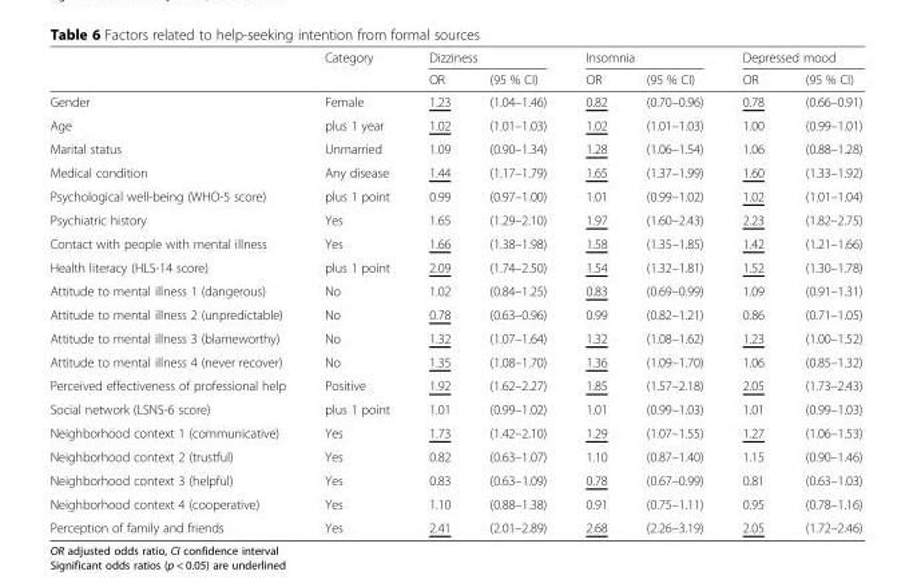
<table><thead><tr><td rowspan="2"></td><td rowspan="2">Category</td><td colspan="2">Dizziness</td><td colspan="2">Insomnia</td><td colspan="2">Depressed mood</td></tr><tr><td>OR</td><td>(95 % CI)</td><td>OR</td><td>(95 % CI)</td><td>OR</td><td>(95 % CI)</td></tr></thead><tbody><tr><td>Gender</td><td>Female</td><td>1.23</td><td>(1.04–1.46)</td><td>0.82</td><td>(0.70–0.96)</td><td>0.78</td><td>(0.66–0.91)</td></tr><tr><td>Age</td><td>plus 1 year</td><td>1.02</td><td>(1.01–1.03)</td><td>1.02</td><td>(1.01–1.03)</td><td>1.00</td><td>(0.99–1.01)</td></tr><tr><td>Marital status</td><td>Unmarried</td><td>1.09</td><td>(0.90–1.34)</td><td>1.28</td><td>(1.06–1.54)</td><td>1.06</td><td>(0.88–1.28)</td></tr><tr><td>Medical condition</td><td>Any disease</td><td>1.44</td><td>(1.17–1.79)</td><td>1.65</td><td>(1.37–1.99)</td><td>1.60</td><td>(1.33–1.92)</td></tr><tr><td>Psychological well-being (WHO-5 score)</td><td>plus 1 point</td><td>0.99</td><td>(0.97–1.00)</td><td>1.01</td><td>(0.99–1.02)</td><td>1.02</td><td>(1.01–1.04)</td></tr><tr><td>Psychiatric history</td><td>Yes</td><td>1.65</td><td>(1.29–2.10)</td><td>1.97</td><td>(1.60–2.43)</td><td>2.23</td><td>(1.82–2.75)</td></tr><tr><td>Contact with people with mental illness</td><td>Yes</td><td>1.66</td><td>(1.38–1.98)</td><td>1.58</td><td>(1.35–1.85)</td><td>1.42</td><td>(1.21–1.66)</td></tr><tr><td>Health literacy (HLS-14 score)</td><td>plus 1 point</td><td>2.09</td><td>(1.74–2.50)</td><td>1.54</td><td>(1.32–1.81)</td><td>1.52</td><td>(1.30–1.78)</td></tr><tr><td>Attitude to mental illness 1 (dangerous)</td><td>No</td><td>1.02</td><td>(0.84–1.25)</td><td>0.83</td><td>(0.69–0.99)</td><td>1.09</td><td>(0.91–1.31)</td></tr><tr><td>Attitude to mental illness 2 (unpredictable)</td><td>No</td><td>0.78</td><td>(0.63–0.96)</td><td>0.99</td><td>(0.82–1.21)</td><td>0.86</td><td>(0.71–1.05)</td></tr><tr><td>Attitude to mental illness 3 (blameworthy)</td><td>No</td><td>1.32</td><td>(1.07–1.64)</td><td>1.32</td><td>(1.08–1.62)</td><td>1.23</td><td>(1.00–1.52)</td></tr><tr><td>Attitude to mental illness 4 (never recover)</td><td>No</td><td>1.35</td><td>(1.08–1.70)</td><td>1.36</td><td>(1.09–1.70)</td><td>1.06</td><td>(0.85–1.32)</td></tr><tr><td>Perceived effectiveness of professional help</td><td>Positive</td><td>1.92</td><td>(1.62–2.27)</td><td>1.85</td><td>(1.57–2.18)</td><td>2.05</td><td>(1.73–2.43)</td></tr><tr><td>Social network (LSNS-6 score)</td><td>plus 1 point</td><td>1.01</td><td>(0.99–1.02)</td><td>1.01</td><td>(0.99–1.03)</td><td>1.01</td><td>(0.99–1.03)</td></tr><tr><td>Neighborhood context 1 (communicative)</td><td>Yes</td><td>1.73</td><td>(1.42–2.10)</td><td>1.29</td><td>(1.07–1.55)</td><td>1.27</td><td>(1.06–1.53)</td></tr><tr><td>Neighborhood context 2 (trustful)</td><td>Yes</td><td>0.82</td><td>(0.63–1.07)</td><td>1.10</td><td>(0.87–1.40)</td><td>1.15</td><td>(0.90–1.46)</td></tr><tr><td>Neighborhood context 3 (helpful)</td><td>Yes</td><td>0.83</td><td>(0.63–1.09)</td><td>0.78</td><td>(0.67–0.99)</td><td>0.81</td><td>(0.63–1.03)</td></tr><tr><td>Neighborhood context 4 (cooperative)</td><td>Yes</td><td>1.10</td><td>(0.88–1.38)</td><td>0.91</td><td>(0.75–1.11)</td><td>0.95</td><td>(0.78–1.16)</td></tr><tr><td>Perception of family and friends</td><td>Yes</td><td>2.41</td><td>(2.01–2.89)</td><td>2.68</td><td>(2.26–3.19)</td><td>2.05</td><td>(1.72–2.46)</td></tr></tbody></table>